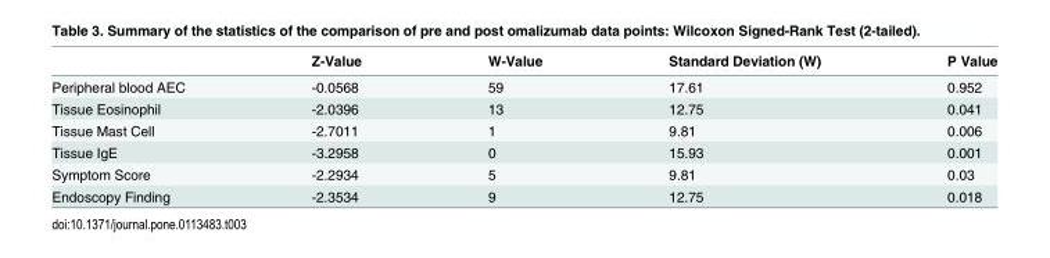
<table><thead><tr><td></td><td>Z-Value</td><td>W-Value</td><td>Standard Deviation (W)</td><td>P Value</td></tr></thead><tbody><tr><td>Peripheral blood AEC</td><td>-0.0568</td><td>59</td><td>17.61</td><td>0.952</td></tr><tr><td>Tissue Eosinophil</td><td>-2.0396</td><td>13</td><td>12.75</td><td>0.041</td></tr><tr><td>Tissue Mast Cell</td><td>-2.7011</td><td>1</td><td>9.81</td><td>0.006</td></tr><tr><td>Tissue IgE</td><td>-3.2958</td><td>0</td><td>15.93</td><td>0.001</td></tr><tr><td>Symptom Score</td><td>-2.2934</td><td>5</td><td>9.81</td><td>0.03</td></tr><tr><td>Endoscopy Finding</td><td>-2.3534</td><td>9</td><td>12.75</td><td>0.018</td></tr></tbody></table>